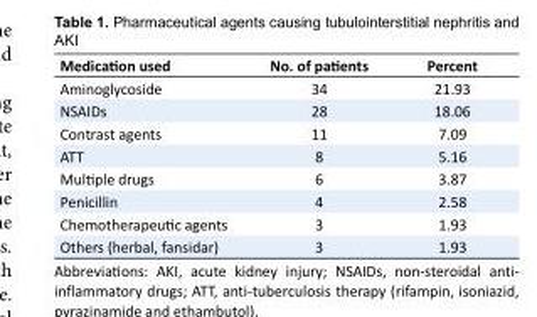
<table><tbody><tr><td>Medication used</td><td>No. of patients</td><td>Percent</td></tr><tr><td>Aminoglycoside</td><td>34</td><td>21.93</td></tr><tr><td>NSAIDs</td><td>28</td><td>18.06</td></tr><tr><td>Contrast agents</td><td>11</td><td>7.09</td></tr><tr><td>ATT</td><td>8</td><td>5.16</td></tr><tr><td>Multiple drugs</td><td>6</td><td>3.87</td></tr><tr><td>Penicillin</td><td>4</td><td>2.58</td></tr><tr><td>Chemotherapeutic agents</td><td>3</td><td>1.93</td></tr><tr><td>Others (herbal, fansidar)</td><td>3</td><td>1.93</td></tr></tbody></table>